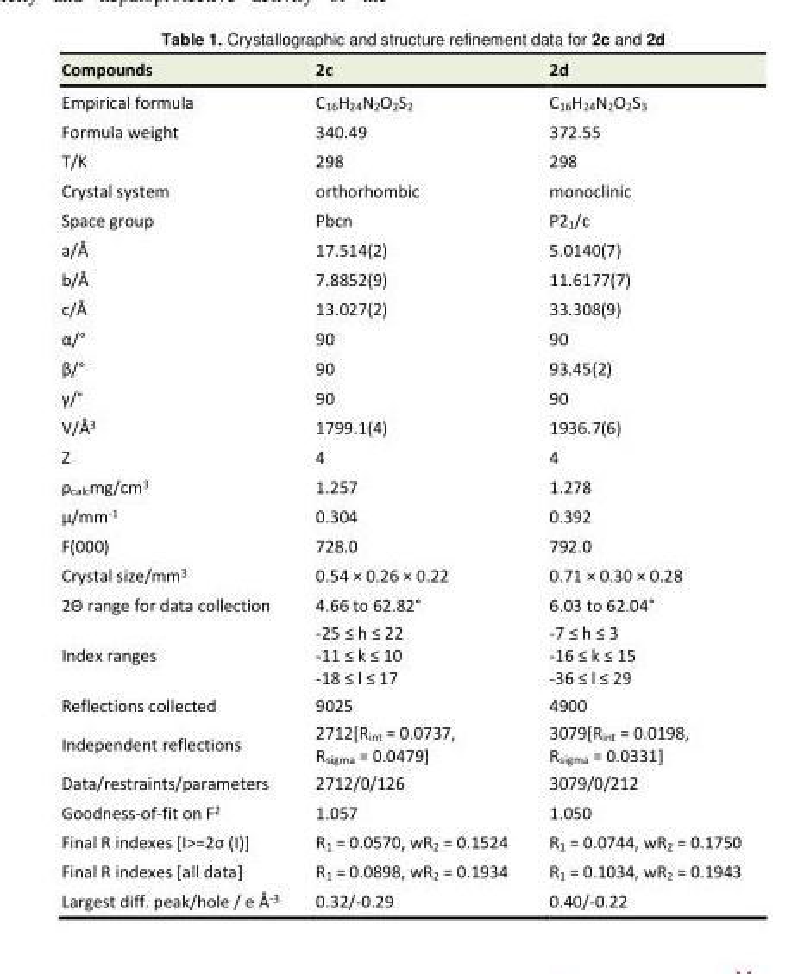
<table><tbody><tr><td>Compounds</td><td>2c</td><td>2d</td></tr><tr><td>Empirical formula</td><td>C<sub>16</sub>H<sub>24</sub>N<sub>2</sub>O<sub>2</sub>S<sub>2</sub></td><td>C<sub>16</sub>H<sub>24</sub>N<sub>2</sub>O<sub>2</sub>S<sub>3</sub></td></tr><tr><td>Formula weight</td><td>340.49</td><td>372.55</td></tr><tr><td>T/K</td><td>298</td><td>298</td></tr><tr><td>Crystal system</td><td>orthorhombic</td><td>monoclinic</td></tr><tr><td>Space group</td><td>Pbcn</td><td>P2<sub>1</sub>/c</td></tr><tr><td>a/Å</td><td>17.514(2)</td><td>5.0140(7)</td></tr><tr><td>b/Å</td><td>7.8852(9)</td><td>11.6177(7)</td></tr><tr><td>c/Å</td><td>13.027(2)</td><td>33.308(9)</td></tr><tr><td>α/°</td><td>90</td><td>90</td></tr><tr><td>β/°</td><td>90</td><td>93.45(2)</td></tr><tr><td>γ/°</td><td>90</td><td>90</td></tr><tr><td>V/Å<sup>3</sup></td><td>1799.1(4)</td><td>1936.7(6)</td></tr><tr><td>Z</td><td>4</td><td>4</td></tr><tr><td>ρ<sub>calc</sub>mg/cm<sup>3</sup></td><td>1.257</td><td>1.278</td></tr><tr><td>μ/mm<sup>-1</sup></td><td>0.304</td><td>0.392</td></tr><tr><td>F(000)</td><td>728.0</td><td>792.0</td></tr><tr><td>Crystal size/mm<sup>3</sup></td><td>0.54 × 0.26 × 0.22</td><td>0.71 × 0.30 × 0.28</td></tr><tr><td>2Θ range for data collection</td><td>4.66 to 62.82°</td><td>6.03 to 62.04°</td></tr><tr><td>Index ranges</td><td>-25 ≤ h ≤ 22 -11 ≤ k ≤ 10 -18 ≤ l ≤ 17</td><td>-7 ≤ h ≤ 3 -16 ≤ k ≤ 15 -36 ≤ l ≤ 29</td></tr><tr><td>Reflections collected</td><td>9025</td><td>4900</td></tr><tr><td>Independent reflections</td><td>2712[R<sub>int</sub> = 0.0737, R<sub>sigma</sub> = 0.0479]</td><td>3079[R<sub>int</sub> = 0.0198, R<sub>sigma</sub> = 0.0331]</td></tr><tr><td>Data/restraints/parameters</td><td>2712/0/126</td><td>3079/0/212</td></tr><tr><td>Goodness-of-fit on F<sup>2</sup></td><td>1.057</td><td>1.050</td></tr><tr><td>Final R indexes [I&gt;=2σ (I)]</td><td>R<sub>1</sub> = 0.0570, wR<sub>2</sub> = 0.1524</td><td>R<sub>1</sub> = 0.0744, wR<sub>2</sub> = 0.1750</td></tr><tr><td>Final R indexes [all data]</td><td>R<sub>1</sub> = 0.0898, wR<sub>2</sub> = 0.1934</td><td>R<sub>1</sub> = 0.1034, wR<sub>2</sub> = 0.1943</td></tr><tr><td>Largest diff. peak/hole / e Å<sup>-3</sup></td><td>0.32/-0.29</td><td>0.40/-0.22</td></tr></tbody></table>